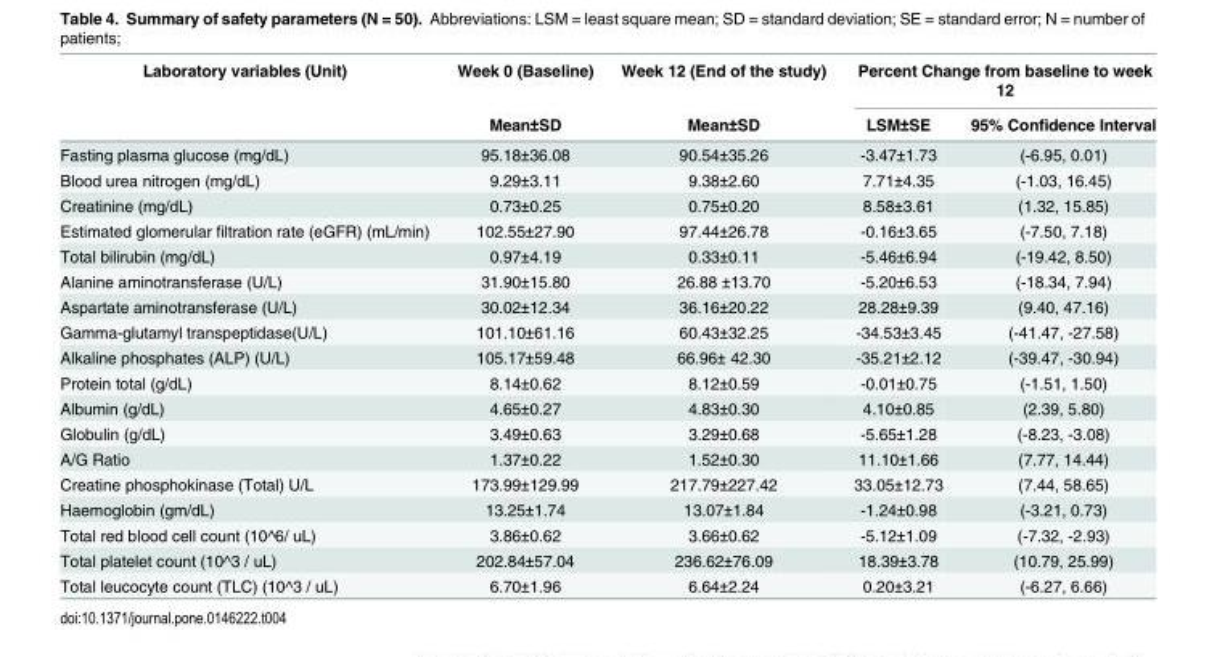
<table><thead><tr><td rowspan="2">Laboratory variables (Unit)</td><td rowspan="2">Week 0 (Baseline) Mean±SD</td><td rowspan="2">Week 12 (End of the study) Mean±SD</td><td colspan="2">Percent Change from baseline to week 12</td></tr><tr><td>LSM±SE</td><td>95% Confidence Interval</td></tr></thead><tbody><tr><td>Fasting plasma glucose (mg/dL)</td><td>95.18±36.08</td><td>90.54±35.26</td><td>-3.47±1.73</td><td>(-6.95, 0.01)</td></tr><tr><td>Blood urea nitrogen (mg/dL)</td><td>9.29±3.11</td><td>9.38±2.60</td><td>7.71±4.35</td><td>(-1.03, 16.45)</td></tr><tr><td>Creatinine (mg/dL)</td><td>0.73±0.25</td><td>0.75±0.20</td><td>8.58±3.61</td><td>(1.32, 15.85)</td></tr><tr><td>Estimated glomerular filtration rate (eGFR) (mL/min)</td><td>102.55±27.90</td><td>97.44±26.78</td><td>-0.16±3.65</td><td>(-7.50, 7.18)</td></tr><tr><td>Total bilirubin (mg/dL)</td><td>0.97±4.19</td><td>0.33±0.11</td><td>-5.46±6.94</td><td>(-19.42, 8.50)</td></tr><tr><td>Alanine aminotransferase (U/L)</td><td>31.90±15.80</td><td>26.88 ±13.70</td><td>-5.20±6.53</td><td>(-18.34, 7.94)</td></tr><tr><td>Aspartate aminotransferase (U/L)</td><td>30.02±12.34</td><td>36.16±20.22</td><td>28.28±9.39</td><td>(9.40, 47.16)</td></tr><tr><td>Gamma-glutamyl transpeptidase(U/L)</td><td>101.10±61.16</td><td>60.43±32.25</td><td>-34.53±3.45</td><td>(-41.47, -27.58)</td></tr><tr><td>Alkaline phosphates (ALP) (U/L)</td><td>105.17±59.48</td><td>66.96± 42.30</td><td>-35.21±2.12</td><td>(-39.47, -30.94)</td></tr><tr><td>Protein total (g/dL)</td><td>8.14±0.62</td><td>8.12±0.59</td><td>-0.01±0.75</td><td>(-1.51, 1.50)</td></tr><tr><td>Albumin (g/dL)</td><td>4.65±0.27</td><td>4.83±0.30</td><td>4.10±0.85</td><td>(2.39, 5.80)</td></tr><tr><td>Globulin (g/dL)</td><td>3.49±0.63</td><td>3.29±0.68</td><td>-5.65±1.28</td><td>(-8.23, -3.08)</td></tr><tr><td>A/G Ratio</td><td>1.37±0.22</td><td>1.52±0.30</td><td>11.10±1.66</td><td>(7.77, 14.44)</td></tr><tr><td>Creatine phosphokinase (Total) U/L</td><td>173.99±129.99</td><td>217.79±227.42</td><td>33.05±12.73</td><td>(7.44, 58.65)</td></tr><tr><td>Haemoglobin (gm/dL)</td><td>13.25±1.74</td><td>13.07±1.84</td><td>-1.24±0.98</td><td>(-3.21, 0.73)</td></tr><tr><td>Total red blood cell count (10^6/ uL)</td><td>3.86±0.62</td><td>3.66±0.62</td><td>-5.12±1.09</td><td>(-7.32, -2.93)</td></tr><tr><td>Total platelet count (10^3 / uL)</td><td>202.84±57.04</td><td>236.62±76.09</td><td>18.39±3.78</td><td>(10.79, 25.99)</td></tr><tr><td>Total leucocyte count (TLC) (10^3 / uL)</td><td>6.70±1.96</td><td>6.64±2.24</td><td>0.20±3.21</td><td>(-6.27, 6.66)</td></tr></tbody></table>